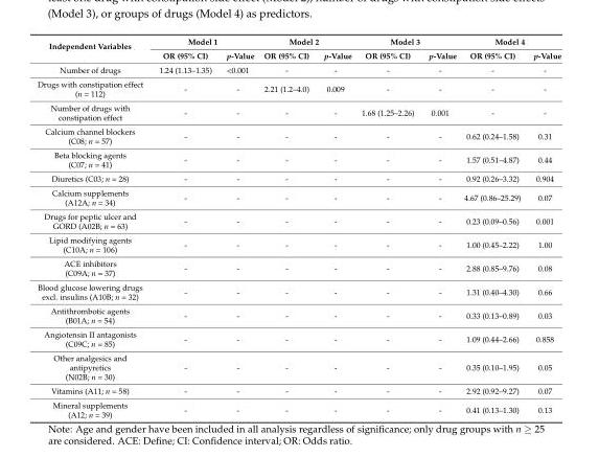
<table><thead><tr><td rowspan="2">Independent Variables</td><td colspan="2">Model 1</td><td colspan="2">Model 2</td><td colspan="2">Model 3</td><td colspan="2">Model 4</td></tr><tr><td>OR (95% CI)</td><td>p-Value</td><td>OR (95% CI)</td><td>p-Value</td><td>OR (95% CI)</td><td>p-Value</td><td>OR (95% CI)</td><td>p-Value</td></tr></thead><tbody><tr><td>Number of drugs</td><td>1.24 (1.13–1.35)</td><td>&lt;0.001</td><td>-</td><td>-</td><td>-</td><td>-</td><td>-</td><td>-</td></tr><tr><td>Drugs with constipation effect (n = 112)</td><td>-</td><td>-</td><td>2.21 (1.2–4.0)</td><td>0.009</td><td>-</td><td>-</td><td>-</td><td>-</td></tr><tr><td>Number of drugs with constipation effect</td><td>-</td><td>-</td><td>-</td><td>-</td><td>1.68 (1.25–2.26)</td><td>0.001</td><td>-</td><td>-</td></tr><tr><td>Calcium channel blockers (C08; n = 57)</td><td>-</td><td>-</td><td>-</td><td>-</td><td>-</td><td>-</td><td>0.62 (0.24–1.58)</td><td>0.31</td></tr><tr><td>Beta blocking agents (C07; n = 41)</td><td>-</td><td>-</td><td>-</td><td>-</td><td>-</td><td>-</td><td>1.57 (0.51–4.87)</td><td>0.44</td></tr><tr><td>Diuretics (C03; n = 28)</td><td>-</td><td>-</td><td>-</td><td>-</td><td>-</td><td>-</td><td>0.92 (0.26–3.32)</td><td>0.904</td></tr><tr><td>Calcium supplements (A12A; n = 34)</td><td>-</td><td>-</td><td>-</td><td>-</td><td>-</td><td>-</td><td>4.67 (0.86–25.29)</td><td>0.07</td></tr><tr><td>Drugs for peptic ulcer and GORD (A02B; n = 63)</td><td>-</td><td>-</td><td>-</td><td>-</td><td>-</td><td>-</td><td>0.23 (0.09–0.56)</td><td>0.001</td></tr><tr><td>Lipid modifying agents (C10A; n = 106)</td><td>-</td><td>-</td><td>-</td><td>-</td><td>-</td><td>-</td><td>1.00 (0.45–2.22)</td><td>1.00</td></tr><tr><td>ACE inhibitors (C09A; n = 37)</td><td>-</td><td>-</td><td>-</td><td>-</td><td>-</td><td>-</td><td>2.88 (0.85–9.76)</td><td>0.08</td></tr><tr><td>Blood glucose lowering drugs excl. insulins (A10B; n = 32)</td><td>-</td><td>-</td><td>-</td><td>-</td><td>-</td><td>-</td><td>1.31 (0.40–4.30)</td><td>0.66</td></tr><tr><td>Antithrombotic agents (B01A; n = 54)</td><td>-</td><td>-</td><td>-</td><td>-</td><td>-</td><td>-</td><td>0.33 (0.13–0.89)</td><td>0.03</td></tr><tr><td>Angiotensin II antagonists (C09C; n = 85)</td><td>-</td><td>-</td><td>-</td><td>-</td><td>-</td><td>-</td><td>1.09 (0.44–2.66)</td><td>0.858</td></tr><tr><td>Other analgesics and antipyretics (N02B; n = 30)</td><td>-</td><td>-</td><td>-</td><td>-</td><td>-</td><td>-</td><td>0.35 (0.10–1.95)</td><td>0.05</td></tr><tr><td>Vitamins (A11; n = 58)</td><td>-</td><td>-</td><td>-</td><td>-</td><td>-</td><td>-</td><td>2.92 (0.92–9.27)</td><td>0.07</td></tr><tr><td>Mineral supplements (A12; n = 39)</td><td>-</td><td>-</td><td>-</td><td>-</td><td>-</td><td>-</td><td>0.41 (0.13–1.30)</td><td>0.13</td></tr></tbody></table>